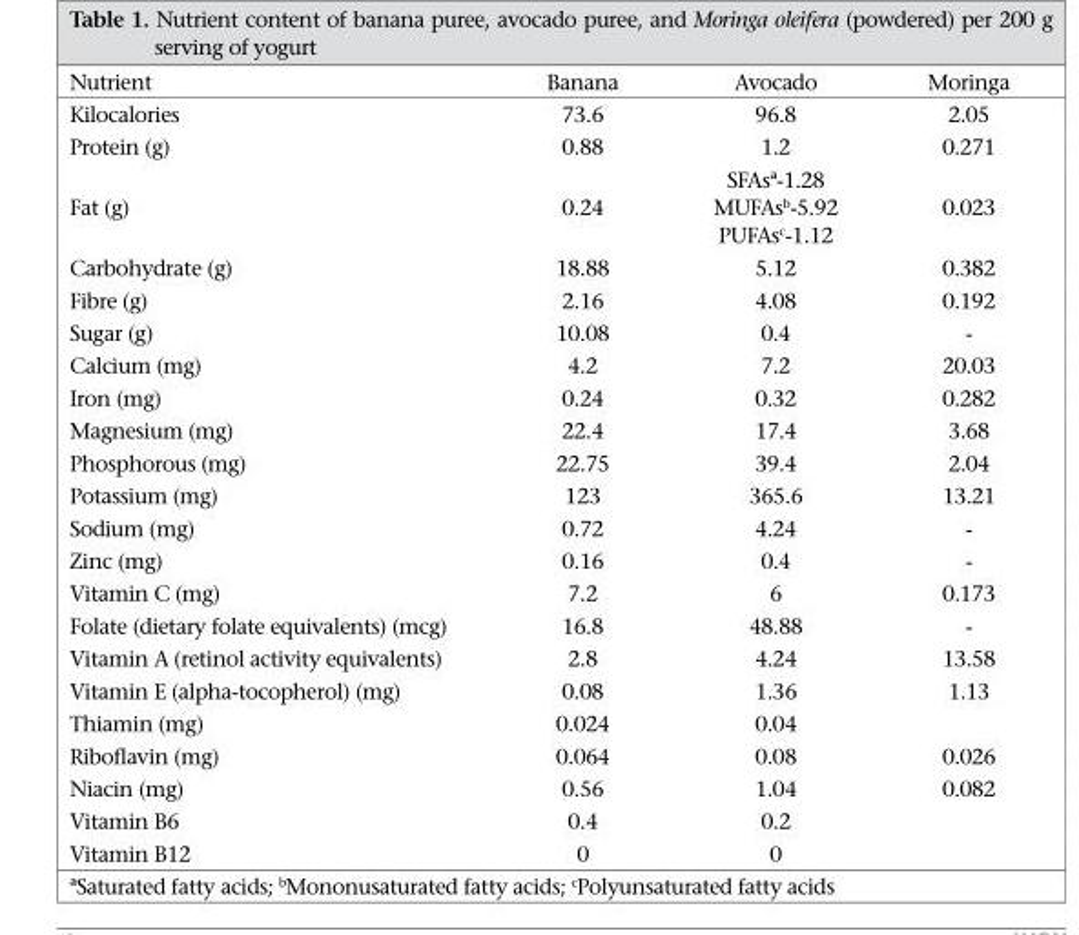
<table><thead><tr><td>Nutrient</td><td>Banana</td><td>Avocado</td><td>Moringa</td></tr></thead><tbody><tr><td>Kilocalories</td><td>73.6</td><td>96.8</td><td>2.05</td></tr><tr><td>Protein (g)</td><td>0.88</td><td>1.2</td><td>0.271</td></tr><tr><td>Fat (g)</td><td>0.24</td><td>SFAs<sup>ª</sup>-1.28 MUFAs<sup>b</sup>-5.92 PUFAs<sup>c</sup>-1.12</td><td>0.023</td></tr><tr><td>Carbohydrate (g)</td><td>18.88</td><td>5.12</td><td>0.382</td></tr><tr><td>Fibre (g)</td><td>2.16</td><td>4.08</td><td>0.192</td></tr><tr><td>Sugar (g)</td><td>10.08</td><td>0.4</td><td>-</td></tr><tr><td>Calcium (mg)</td><td>4.2</td><td>7.2</td><td>20.03</td></tr><tr><td>Iron (mg)</td><td>0.24</td><td>0.32</td><td>0.282</td></tr><tr><td>Magnesium (mg)</td><td>22.4</td><td>17.4</td><td>3.68</td></tr><tr><td>Phosphorous (mg)</td><td>22.75</td><td>39.4</td><td>2.04</td></tr><tr><td>Potassium (mg)</td><td>123</td><td>365.6</td><td>13.21</td></tr><tr><td>Sodium (mg)</td><td>0.72</td><td>4.24</td><td>-</td></tr><tr><td>Zinc (mg)</td><td>0.16</td><td>0.4</td><td>-</td></tr><tr><td>Vitamin C (mg)</td><td>7.2</td><td>6</td><td>0.173</td></tr><tr><td>Folate (dietary folate equivalents) (mcg)</td><td>16.8</td><td>48.88</td><td>-</td></tr><tr><td>Vitamin A (retinol activity equivalents)</td><td>2.8</td><td>4.24</td><td>13.58</td></tr><tr><td>Vitamin E (alpha-tocopherol) (mg)</td><td>0.08</td><td>1.36</td><td>1.13</td></tr><tr><td>Thiamin (mg)</td><td>0.024</td><td>0.04</td><td></td></tr><tr><td>Riboflavin (mg)</td><td>0.064</td><td>0.08</td><td>0.026</td></tr><tr><td>Niacin (mg)</td><td>0.56</td><td>1.04</td><td>0.082</td></tr><tr><td>Vitamin B6</td><td>0.4</td><td>0.2</td><td></td></tr><tr><td>Vitamin B12</td><td>0</td><td>0</td><td></td></tr></tbody></table>